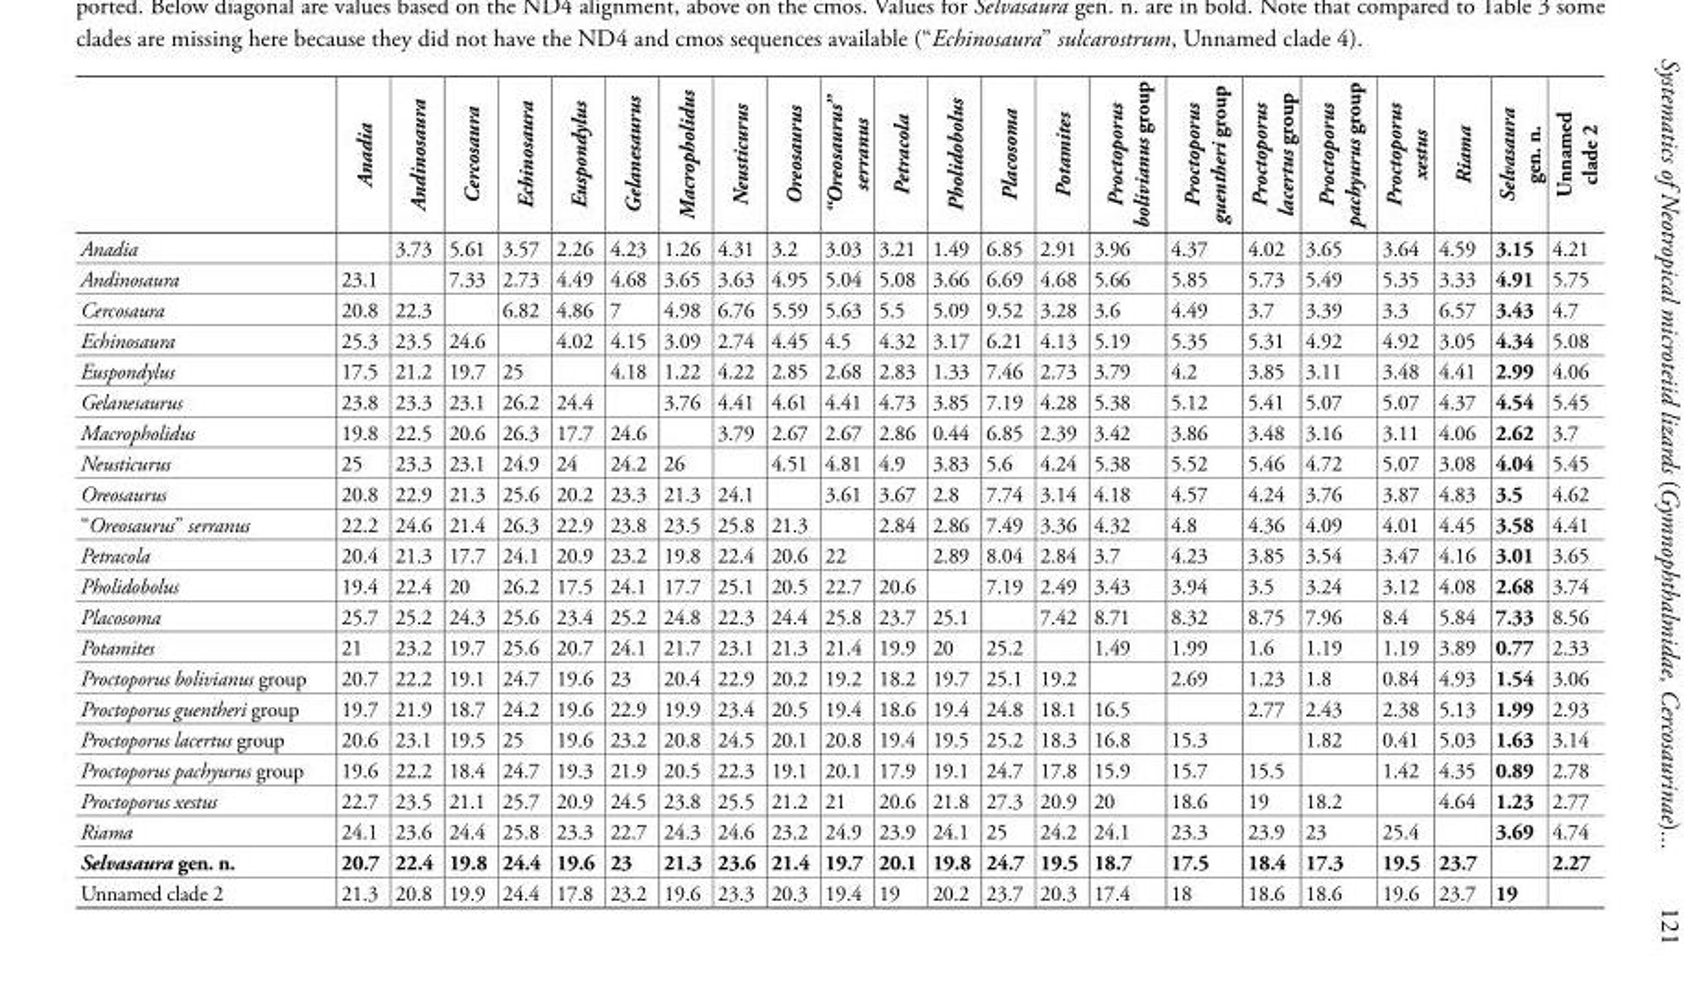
<table><thead><tr><td></td><td>Anadia</td><td>Andinosaura</td><td>Cercosaura</td><td>Echinosaura</td><td>Euspondylus</td><td>Gelanesaurus</td><td>Macropholidus</td><td>Neusticurus</td><td>Oreosaurus</td><td>“Oreosaurus” serranus</td><td>Petracola</td><td>Pholidobolus</td><td>Placosoma</td><td>Potamites</td><td>Proctoporus bolivianus group</td><td>Proctoporus guentheri group</td><td>Proctoporus lacertus group</td><td>Proctoporus pachyurus group</td><td>Proctoporus xestus</td><td>Riama</td><td>Selvasaura gen. n.</td><td>Unnamed clade 2</td></tr></thead><tbody><tr><td>Anadia</td><td></td><td>3.73</td><td>5.61</td><td>3.57</td><td>2.26</td><td>4.23</td><td>1.26</td><td>4.31</td><td>3.2</td><td>3.03</td><td>3.21</td><td>1.49</td><td>6.85</td><td>2.91</td><td>3.96</td><td>4.37</td><td>4.02</td><td>3.65</td><td>3.64</td><td>4.59</td><td>3.15</td><td>4.21</td></tr><tr><td>Andinosaura</td><td>23.1</td><td></td><td>7.33</td><td>2.73</td><td>4.49</td><td>4.68</td><td>3.65</td><td>3.63</td><td>4.95</td><td>5.04</td><td>5.08</td><td>3.66</td><td>6.69</td><td>4.68</td><td>5.66</td><td>5.85</td><td>5.73</td><td>5.49</td><td>5.35</td><td>3.33</td><td>4.91</td><td>5.75</td></tr><tr><td>Cercosaura</td><td>20.8</td><td>22.3</td><td></td><td>6.82</td><td>4.86</td><td>7</td><td>4.98</td><td>6.76</td><td>5.59</td><td>5.63</td><td>5.5</td><td>5.09</td><td>9.52</td><td>3.28</td><td>3.6</td><td>4.49</td><td>3.7</td><td>3.39</td><td>3.3</td><td>6.57</td><td>3.43</td><td>4.7</td></tr><tr><td>Echinosaura</td><td>25.3</td><td>23.5</td><td>24.6</td><td></td><td>4.02</td><td>4.15</td><td>3.09</td><td>2.74</td><td>4.45</td><td>4.5</td><td>4.32</td><td>3.17</td><td>6.21</td><td>4.13</td><td>5.19</td><td>5.35</td><td>5.31</td><td>4.92</td><td>4.92</td><td>3.05</td><td>4.34</td><td>5.08</td></tr><tr><td>Euspondylus</td><td>17.5</td><td>21.2</td><td>19.7</td><td>25</td><td></td><td>4.18</td><td>1.22</td><td>4.22</td><td>2.85</td><td>2.68</td><td>2.83</td><td>1.33</td><td>7.46</td><td>2.73</td><td>3.79</td><td>4.2</td><td>3.85</td><td>3.11</td><td>3.48</td><td>4.41</td><td>2.99</td><td>4.06</td></tr><tr><td>Gelanesaurus</td><td>23.8</td><td>23.3</td><td>23.1</td><td>26.2</td><td>24.4</td><td></td><td>3.76</td><td>4.41</td><td>4.61</td><td>4.41</td><td>4.73</td><td>3.85</td><td>7.19</td><td>4.28</td><td>5.38</td><td>5.12</td><td>5.41</td><td>5.07</td><td>5.07</td><td>4.37</td><td>4.54</td><td>5.45</td></tr><tr><td>Macropholidus</td><td>19.8</td><td>22.5</td><td>20.6</td><td>26.3</td><td>17.7</td><td>24.6</td><td></td><td>3.79</td><td>2.67</td><td>2.67</td><td>2.86</td><td>0.44</td><td>6.85</td><td>2.39</td><td>3.42</td><td>3.86</td><td>3.48</td><td>3.16</td><td>3.11</td><td>4.06</td><td>2.62</td><td>3.7</td></tr><tr><td>Neusticurus</td><td>25</td><td>23.3</td><td>23.1</td><td>24.9</td><td>24</td><td>24.2</td><td>26</td><td></td><td>4.51</td><td>4.81</td><td>4.9</td><td>3.83</td><td>5.6</td><td>4.24</td><td>5.38</td><td>5.52</td><td>5.46</td><td>4.72</td><td>5.07</td><td>3.08</td><td>4.04</td><td>5.45</td></tr><tr><td>Oreosaurus</td><td>20.8</td><td>22.9</td><td>21.3</td><td>25.6</td><td>20.2</td><td>23.3</td><td>21.3</td><td>24.1</td><td></td><td>3.61</td><td>3.67</td><td>2.8</td><td>7.74</td><td>3.14</td><td>4.18</td><td>4.57</td><td>4.24</td><td>3.76</td><td>3.87</td><td>4.83</td><td>3.5</td><td>4.62</td></tr><tr><td>“Oreosaurus” serranus</td><td>22.2</td><td>24.6</td><td>21.4</td><td>26.3</td><td>22.9</td><td>23.8</td><td>23.5</td><td>25.8</td><td>21.3</td><td></td><td>2.84</td><td>2.86</td><td>7.49</td><td>3.36</td><td>4.32</td><td>4.8</td><td>4.36</td><td>4.09</td><td>4.01</td><td>4.45</td><td>3.58</td><td>4.41</td></tr><tr><td>Petracola</td><td>20.4</td><td>21.3</td><td>17.7</td><td>24.1</td><td>20.9</td><td>23.2</td><td>19.8</td><td>22.4</td><td>20.6</td><td>22</td><td></td><td>2.89</td><td>8.04</td><td>2.84</td><td>3.7</td><td>4.23</td><td>3.85</td><td>3.54</td><td>3.47</td><td>4.16</td><td>3.01</td><td>3.65</td></tr><tr><td>Pholidobolus</td><td>19.4</td><td>22.4</td><td>20</td><td>26.2</td><td>17.5</td><td>24.1</td><td>17.7</td><td>25.1</td><td>20.5</td><td>22.7</td><td>20.6</td><td></td><td>7.19</td><td>2.49</td><td>3.43</td><td>3.94</td><td>3.5</td><td>3.24</td><td>3.12</td><td>4.08</td><td>2.68</td><td>3.74</td></tr><tr><td>Placosoma</td><td>25.7</td><td>25.2</td><td>24.3</td><td>25.6</td><td>23.4</td><td>25.2</td><td>24.8</td><td>22.3</td><td>24.4</td><td>25.8</td><td>23.7</td><td>25.1</td><td></td><td>7.42</td><td>8.71</td><td>8.32</td><td>8.75</td><td>7.96</td><td>8.4</td><td>5.84</td><td>7.33</td><td>8.56</td></tr><tr><td>Potamites</td><td>21</td><td>23.2</td><td>19.7</td><td>25.6</td><td>20.7</td><td>24.1</td><td>21.7</td><td>23.1</td><td>21.3</td><td>21.4</td><td>19.9</td><td>20</td><td>25.2</td><td></td><td>1.49</td><td>1.99</td><td>1.6</td><td>1.19</td><td>1.19</td><td>3.89</td><td>0.77</td><td>2.33</td></tr><tr><td>Proctoporus bolivianus group</td><td>20.7</td><td>22.2</td><td>19.1</td><td>24.7</td><td>19.6</td><td>23</td><td>20.4</td><td>22.9</td><td>20.2</td><td>19.2</td><td>18.2</td><td>19.7</td><td>25.1</td><td>19.2</td><td></td><td>2.69</td><td>1.23</td><td>1.8</td><td>0.84</td><td>4.93</td><td>1.54</td><td>3.06</td></tr><tr><td>Proctoporus guentheri group</td><td>19.7</td><td>21.9</td><td>18.7</td><td>24.2</td><td>19.6</td><td>22.9</td><td>19.9</td><td>23.4</td><td>20.5</td><td>19.4</td><td>18.6</td><td>19.4</td><td>24.8</td><td>18.1</td><td>16.5</td><td></td><td>2.77</td><td>2.43</td><td>2.38</td><td>5.13</td><td>1.99</td><td>2.93</td></tr><tr><td>Proctoporus lacertus group</td><td>20.6</td><td>23.1</td><td>19.5</td><td>25</td><td>19.6</td><td>23.2</td><td>20.8</td><td>24.5</td><td>20.1</td><td>20.8</td><td>19.4</td><td>19.5</td><td>25.2</td><td>18.3</td><td>16.8</td><td>15.3</td><td></td><td>1.82</td><td>0.41</td><td>5.03</td><td>1.63</td><td>3.14</td></tr><tr><td>Proctoporus pachyurus group</td><td>19.6</td><td>22.2</td><td>18.4</td><td>24.7</td><td>19.3</td><td>21.9</td><td>20.5</td><td>22.3</td><td>19.1</td><td>20.1</td><td>17.9</td><td>19.1</td><td>24.7</td><td>17.8</td><td>15.9</td><td>15.7</td><td>15.5</td><td></td><td>1.42</td><td>4.35</td><td>0.89</td><td>2.78</td></tr><tr><td>Proctoporus xestus</td><td>22.7</td><td>23.5</td><td>21.1</td><td>25.7</td><td>20.9</td><td>24.5</td><td>23.8</td><td>25.5</td><td>21.2</td><td>21</td><td>20.6</td><td>21.8</td><td>27.3</td><td>20.9</td><td>20</td><td>18.6</td><td>19</td><td>18.2</td><td></td><td>4.64</td><td>1.23</td><td>2.77</td></tr><tr><td>Riama</td><td>24.1</td><td>23.6</td><td>24.4</td><td>25.8</td><td>23.3</td><td>22.7</td><td>24.3</td><td>24.6</td><td>23.2</td><td>24.9</td><td>23.9</td><td>24.1</td><td>25</td><td>24.2</td><td>24.1</td><td>23.3</td><td>23.9</td><td>23</td><td>25.4</td><td></td><td>3.69</td><td>4.74</td></tr><tr><td>Selvasaura gen. n.</td><td>20.7</td><td>22.4</td><td>19.8</td><td>24.4</td><td>19.6</td><td>23</td><td>21.3</td><td>23.6</td><td>21.4</td><td>19.7</td><td>20.1</td><td>19.8</td><td>24.7</td><td>19.5</td><td>18.7</td><td>17.5</td><td>18.4</td><td>17.3</td><td>19.5</td><td>23.7</td><td></td><td>2.27</td></tr><tr><td>Unnamed clade 2</td><td>21.3</td><td>20.8</td><td>19.9</td><td>24.4</td><td>17.8</td><td>23.2</td><td>19.6</td><td>23.3</td><td>20.3</td><td>19.4</td><td>19</td><td>20.2</td><td>23.7</td><td>20.3</td><td>17.4</td><td>18</td><td>18.6</td><td>18.6</td><td>19.6</td><td>23.7</td><td>19</td><td></td></tr></tbody></table>